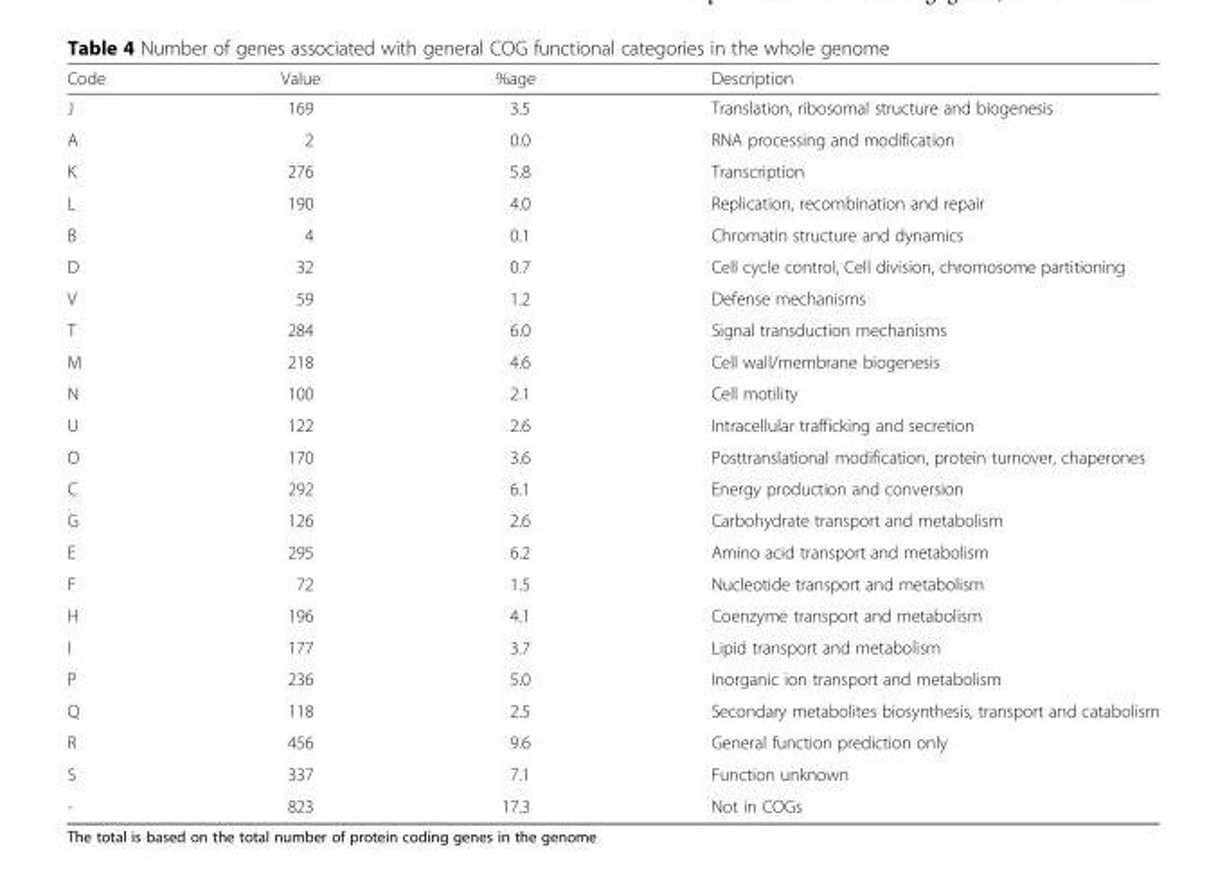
<table><thead><tr><td>Code</td><td>Value</td><td>%age</td><td>Description</td></tr></thead><tbody><tr><td>J</td><td>169</td><td>3.5</td><td>Translation, ribosomal structure and biogenesis</td></tr><tr><td>A</td><td>2</td><td>0.0</td><td>RNA processing and modification</td></tr><tr><td>K</td><td>276</td><td>5.8</td><td>Transcription</td></tr><tr><td>L</td><td>190</td><td>4.0</td><td>Replication, recombination and repair</td></tr><tr><td>B</td><td>4</td><td>0.1</td><td>Chromatin structure and dynamics</td></tr><tr><td>D</td><td>32</td><td>0.7</td><td>Cell cycle control, Cell division, chromosome partitioning</td></tr><tr><td>V</td><td>59</td><td>1.2</td><td>Defense mechanisms</td></tr><tr><td>T</td><td>284</td><td>6.0</td><td>Signal transduction mechanisms</td></tr><tr><td>M</td><td>218</td><td>4.6</td><td>Cell wall/membrane biogenesis</td></tr><tr><td>N</td><td>100</td><td>2.1</td><td>Cell motility</td></tr><tr><td>U</td><td>122</td><td>2.6</td><td>Intracellular trafficking and secretion</td></tr><tr><td>O</td><td>170</td><td>3.6</td><td>Posttranslational modification, protein turnover, chaperones</td></tr><tr><td>C</td><td>292</td><td>6.1</td><td>Energy production and conversion</td></tr><tr><td>G</td><td>126</td><td>2.6</td><td>Carbohydrate transport and metabolism</td></tr><tr><td>E</td><td>295</td><td>6.2</td><td>Amino acid transport and metabolism</td></tr><tr><td>F</td><td>72</td><td>1.5</td><td>Nucleotide transport and metabolism</td></tr><tr><td>H</td><td>196</td><td>4.1</td><td>Coenzyme transport and metabolism</td></tr><tr><td>I</td><td>177</td><td>3.7</td><td>Lipid transport and metabolism</td></tr><tr><td>P</td><td>236</td><td>5.0</td><td>Inorganic ion transport and metabolism</td></tr><tr><td>Q</td><td>118</td><td>2.5</td><td>Secondary metabolites biosynthesis, transport and catabolism</td></tr><tr><td>R</td><td>456</td><td>9.6</td><td>General function prediction only</td></tr><tr><td>S</td><td>337</td><td>7.1</td><td>Function unknown</td></tr><tr><td>-</td><td>823</td><td>17.3</td><td>Not in COGs</td></tr></tbody></table>